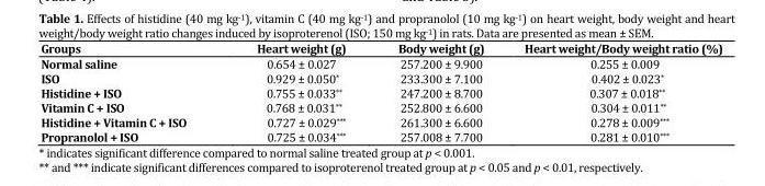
<table><thead><tr><td>Groups</td><td>Heart weight (g)</td><td>Body weight (g)</td><td>Heart weight/Body weight ratio (%)</td></tr></thead><tbody><tr><td>Normal saline</td><td>0.654 ± 0.027</td><td>257.200 ± 9.900</td><td>0.255 ± 0.009</td></tr><tr><td>ISO</td><td>0.929 ± 0.050*</td><td>233.300 ± 7.100</td><td>0.402 ± 0.023*</td></tr><tr><td>Histidine + ISO</td><td>0.755 ± 0.033**</td><td>247.200 ± 8.700</td><td>0.307 ± 0.018**</td></tr><tr><td>Vitamin C + ISO</td><td>0.768 ± 0.031**</td><td>252.800 ± 6.600</td><td>0.304 ± 0.011**</td></tr><tr><td>Histidine + Vitamin C + ISO</td><td>0.727 ± 0.029***</td><td>261.300 ± 6.600</td><td>0.278 ± 0.009***</td></tr><tr><td>Propranolol + ISO</td><td>0.725 ± 0.034***</td><td>257.008 ± 7.700</td><td>0.281 ± 0.010***</td></tr></tbody></table>